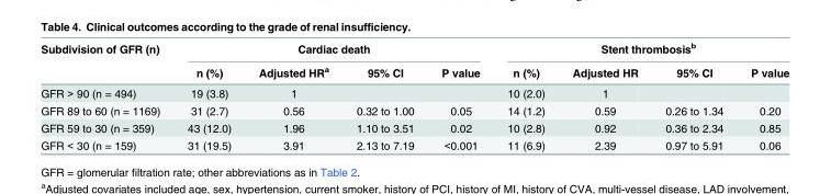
<table><thead><tr><td rowspan="2">Subdivision of GFR (n)</td><td colspan="4">Cardiac death</td><td colspan="4">Stent thrombosis<sup>b</sup></td></tr><tr><td>n (%)</td><td>Adjusted HR<sup>a</sup></td><td>95% CI</td><td>P value</td><td>n (%)</td><td>Adjusted HR</td><td>95% CI</td><td>P value</td></tr></thead><tbody><tr><td>GFR &gt; 90 (n = 494)</td><td>19 (3.8)</td><td>1</td><td></td><td></td><td>10 (2.0)</td><td>1</td><td></td><td></td></tr><tr><td>GFR 89 to 60 (n = 1169)</td><td>31 (2.7)</td><td>0.56</td><td>0.32 to 1.00</td><td>0.05</td><td>14 (1.2)</td><td>0.59</td><td>0.26 to 1.34</td><td>0.20</td></tr><tr><td>GFR 59 to 30 (n = 359)</td><td>43 (12.0)</td><td>1.96</td><td>1.10 to 3.51</td><td>0.02</td><td>10 (2.8)</td><td>0.92</td><td>0.36 to 2.34</td><td>0.85</td></tr><tr><td>GFR &lt; 30 (n = 159)</td><td>31 (19.5)</td><td>3.91</td><td>2.13 to 7.19</td><td>&lt;0.001</td><td>11 (6.9)</td><td>2.39</td><td>0.97 to 5.91</td><td>0.06</td></tr></tbody></table>